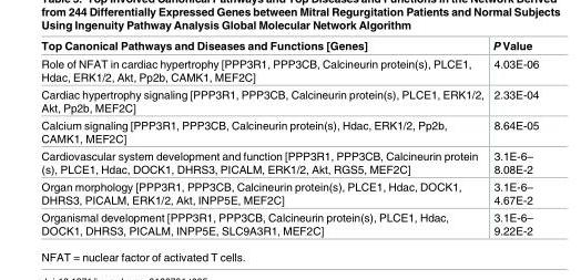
<table><thead><tr><td>Top Canonical Pathways and Diseases and Functions [Genes]</td><td>P Value</td></tr></thead><tbody><tr><td>Role of NFAT in cardiac hypertrophy [PPP3R1, PPP3CB, Calcineurin protein(s), PLCE1, Hdac, ERK1/2, Akt, Pp2b, CAMK1, MEF2C]</td><td>4.03E-06</td></tr><tr><td>Cardiac hypertrophy signaling [PPP3R1, PPP3CB, Calcineurin protein(s), PLCE1, ERK1/2, Akt, Pp2b, MEF2C]</td><td>2.33E-04</td></tr><tr><td>Calcium signaling [PPP3R1, PPP3CB, Calcineurin protein(s), Hdac, ERK1/2, Pp2b, CAMK1, MEF2C]</td><td>8.64E-05</td></tr><tr><td>Cardiovascular system development and function [PPP3R1, PPP3CB, Calcineurin protein (s), PLCE1, Hdac, DOCK1, DHRS3, PICALM, ERK1/2, Akt, RGS5, MEF2C]</td><td>3.1E-6– 8.08E-2</td></tr><tr><td>Organ morphology [PPP3R1, PPP3CB, Calcineurin protein(s), PLCE1, Hdac, DOCK1, DHRS3, PICALM, ERK1/2, Akt, INPP5E, MEF2C]</td><td>3.1E-6– 4.67E-2</td></tr><tr><td>Organismal development [PPP3R1, PPP3CB, Calcineurin protein(s), PLCE1, Hdac, DOCK1, DHRS3, PICALM, INPP5E, SLC9A3R1, MEF2C]</td><td>3.1E-6– 9.22E-2</td></tr></tbody></table>